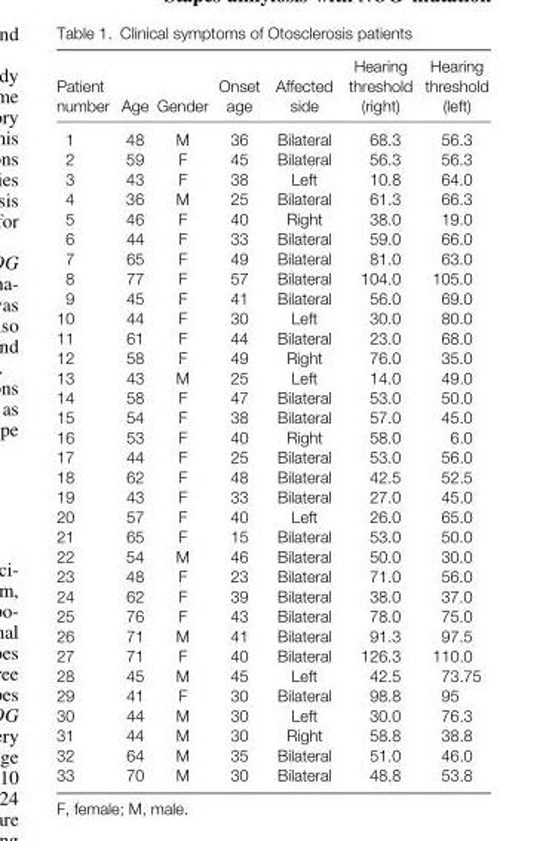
<table><thead><tr><td>Patient number</td><td>Age</td><td>Gender</td><td>Onset age</td><td>Affected side</td><td>Hearing threshold (right)</td><td>Hearing threshold (left)</td></tr></thead><tbody><tr><td>1</td><td>48</td><td>M</td><td>36</td><td>Bilateral</td><td>68.3</td><td>56.3</td></tr><tr><td>2</td><td>59</td><td>F</td><td>45</td><td>Bilateral</td><td>56.3</td><td>56.3</td></tr><tr><td>3</td><td>43</td><td>F</td><td>38</td><td>Left</td><td>10.8</td><td>64.0</td></tr><tr><td>4</td><td>36</td><td>M</td><td>25</td><td>Bilateral</td><td>61.3</td><td>66.3</td></tr><tr><td>5</td><td>46</td><td>F</td><td>40</td><td>Right</td><td>38.0</td><td>19.0</td></tr><tr><td>6</td><td>44</td><td>F</td><td>33</td><td>Bilateral</td><td>59.0</td><td>66.0</td></tr><tr><td>7</td><td>65</td><td>F</td><td>49</td><td>Bilateral</td><td>81.0</td><td>63.0</td></tr><tr><td>8</td><td>77</td><td>F</td><td>57</td><td>Bilateral</td><td>104.0</td><td>105.0</td></tr><tr><td>9</td><td>45</td><td>F</td><td>41</td><td>Bilateral</td><td>56.0</td><td>69.0</td></tr><tr><td>10</td><td>44</td><td>F</td><td>30</td><td>Left</td><td>30.0</td><td>80.0</td></tr><tr><td>11</td><td>61</td><td>F</td><td>44</td><td>Bilateral</td><td>23.0</td><td>68.0</td></tr><tr><td>12</td><td>58</td><td>F</td><td>49</td><td>Right</td><td>76.0</td><td>35.0</td></tr><tr><td>13</td><td>43</td><td>M</td><td>25</td><td>Left</td><td>14.0</td><td>49.0</td></tr><tr><td>14</td><td>58</td><td>F</td><td>47</td><td>Bilateral</td><td>53.0</td><td>50.0</td></tr><tr><td>15</td><td>54</td><td>F</td><td>38</td><td>Bilateral</td><td>57.0</td><td>45.0</td></tr><tr><td>16</td><td>53</td><td>F</td><td>40</td><td>Right</td><td>58.0</td><td>6.0</td></tr><tr><td>17</td><td>44</td><td>F</td><td>25</td><td>Bilateral</td><td>53.0</td><td>56.0</td></tr><tr><td>18</td><td>62</td><td>F</td><td>48</td><td>Bilateral</td><td>42.5</td><td>52.5</td></tr><tr><td>19</td><td>43</td><td>F</td><td>33</td><td>Bilateral</td><td>27.0</td><td>45.0</td></tr><tr><td>20</td><td>57</td><td>F</td><td>40</td><td>Left</td><td>26.0</td><td>65.0</td></tr><tr><td>21</td><td>65</td><td>F</td><td>15</td><td>Bilateral</td><td>53.0</td><td>50.0</td></tr><tr><td>22</td><td>54</td><td>M</td><td>46</td><td>Bilateral</td><td>50.0</td><td>30.0</td></tr><tr><td>23</td><td>48</td><td>F</td><td>23</td><td>Bilateral</td><td>71.0</td><td>56.0</td></tr><tr><td>24</td><td>62</td><td>F</td><td>39</td><td>Bilateral</td><td>38.0</td><td>37.0</td></tr><tr><td>25</td><td>76</td><td>F</td><td>43</td><td>Bilateral</td><td>78.0</td><td>75.0</td></tr><tr><td>26</td><td>71</td><td>M</td><td>41</td><td>Bilateral</td><td>91.3</td><td>97.5</td></tr><tr><td>27</td><td>71</td><td>F</td><td>40</td><td>Bilateral</td><td>126.3</td><td>110.0</td></tr><tr><td>28</td><td>45</td><td>M</td><td>45</td><td>Left</td><td>42.5</td><td>73.75</td></tr><tr><td>29</td><td>41</td><td>F</td><td>30</td><td>Bilateral</td><td>98.8</td><td>95</td></tr><tr><td>30</td><td>44</td><td>M</td><td>30</td><td>Left</td><td>30.0</td><td>76.3</td></tr><tr><td>31</td><td>44</td><td>M</td><td>30</td><td>Right</td><td>58.8</td><td>38.8</td></tr><tr><td>32</td><td>64</td><td>M</td><td>35</td><td>Bilateral</td><td>51.0</td><td>46.0</td></tr><tr><td>33</td><td>70</td><td>M</td><td>30</td><td>Bilateral</td><td>48.8</td><td>53.8</td></tr></tbody></table>